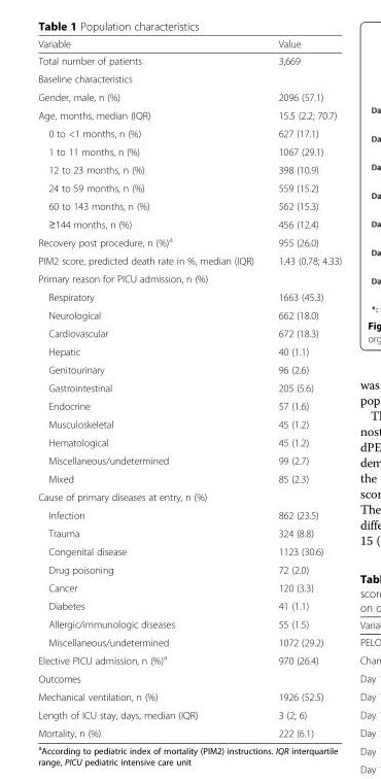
<table><thead><tr><td>Variable</td><td>Value</td></tr></thead><tbody><tr><td>Total number of patients</td><td>3,669</td></tr><tr><td colspan="2">Baseline characteristics</td></tr><tr><td>Gender, male, n (%)</td><td>2096 (57.1)</td></tr><tr><td>Age, months, median (IQR)</td><td>15.5 (2.2; 70.7)</td></tr><tr><td>0 to &lt;1 months, n (%)</td><td>627 (17.1)</td></tr><tr><td>1 to 11 months, n (%)</td><td>1067 (29.1)</td></tr><tr><td>12 to 23 months, n (%)</td><td>398 (10.9)</td></tr><tr><td>24 to 59 months, n (%)</td><td>559 (15.2)</td></tr><tr><td>60 to 143 months, n (%)</td><td>562 (15.3)</td></tr><tr><td>≥144 months, n (%)</td><td>456 (12.4)</td></tr><tr><td>Recovery post procedure, n (%)<sup>a</sup></td><td>955 (26.0)</td></tr><tr><td>PIM2 score, predicted death rate in %, median (IQR)</td><td>1.43 (0.78; 4.33)</td></tr><tr><td colspan="2">Primary reason for PICU admission, n (%)</td></tr><tr><td>Respiratory</td><td>1663 (45.3)</td></tr><tr><td>Neurological</td><td>662 (18.0)</td></tr><tr><td>Cardiovascular</td><td>672 (18.3)</td></tr><tr><td>Hepatic</td><td>40 (1.1)</td></tr><tr><td>Genitourinary</td><td>96 (2.6)</td></tr><tr><td>Gastrointestinal</td><td>205 (5.6)</td></tr><tr><td>Endocrine</td><td>57 (1.6)</td></tr><tr><td>Musculoskeletal</td><td>45 (1.2)</td></tr><tr><td>Hematological</td><td>45 (1.2)</td></tr><tr><td>Miscellaneous/undetermined</td><td>99 (2.7)</td></tr><tr><td>Mixed</td><td>85 (2.3)</td></tr><tr><td colspan="2">Cause of primary diseases at entry, n (%)</td></tr><tr><td>Infection</td><td>862 (23.5)</td></tr><tr><td>Trauma</td><td>324 (8.8)</td></tr><tr><td>Congenital disease</td><td>1123 (30.6)</td></tr><tr><td>Drug poisoning</td><td>72 (2.0)</td></tr><tr><td>Cancer</td><td>120 (3.3)</td></tr><tr><td>Diabetes</td><td>41 (1.1)</td></tr><tr><td>Allergic/immunologic diseases</td><td>55 (1.5)</td></tr><tr><td>Miscellaneous/undetermined</td><td>1072 (29.2)</td></tr><tr><td>Elective PICU admission, n (%)<sup>a</sup></td><td>970 (26.4)</td></tr><tr><td colspan="2">Outcomes</td></tr><tr><td>Mechanical ventilation, n (%)</td><td>1926 (52.5)</td></tr><tr><td>Length of ICU stay, days, median (IQR)</td><td>3 (2; 6)</td></tr><tr><td>Mortality, n (%)</td><td>222 (6.1)</td></tr></tbody></table>